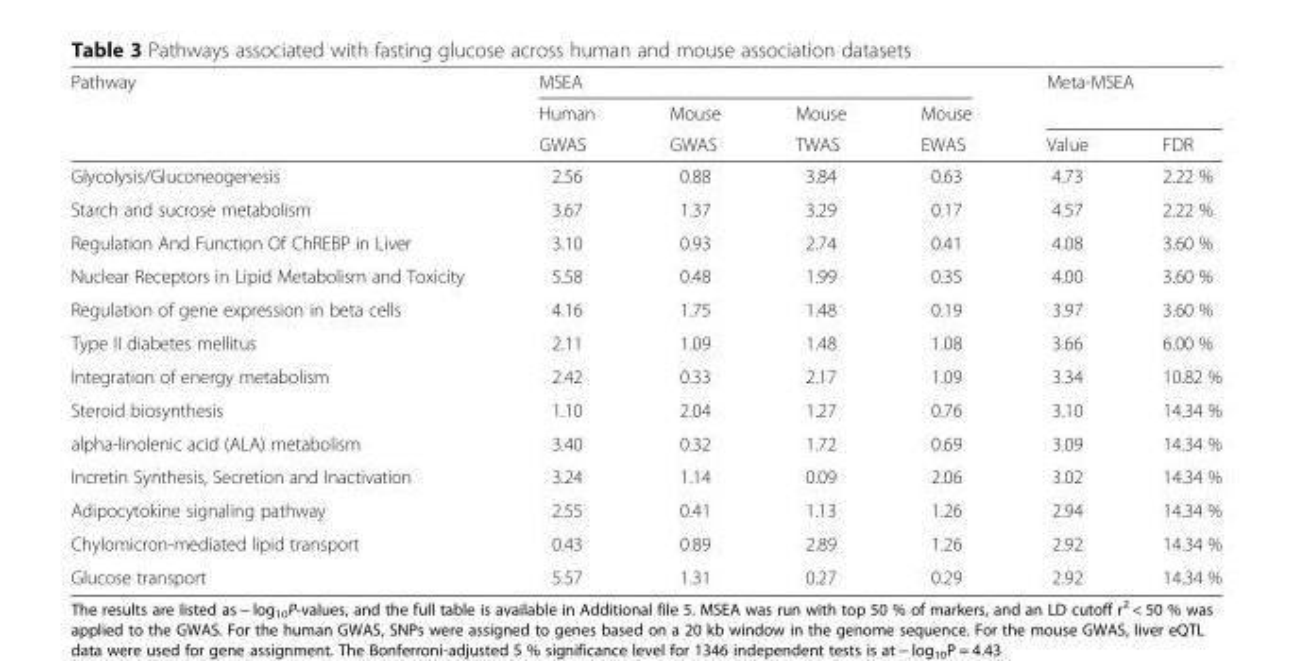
<table><thead><tr><td rowspan="3">Pathway</td><td colspan="4">MSEA</td><td rowspan="2" colspan="2">Meta-MSEA</td></tr><tr><td rowspan="2">Human GWAS</td><td rowspan="2">Mouse GWAS</td><td rowspan="2">Mouse TWAS</td><td rowspan="2">Mouse EWAS</td></tr><tr><td>Value</td><td>FDR</td></tr></thead><tbody><tr><td>Glycolysis/Gluconeogenesis</td><td>2.56</td><td>0.88</td><td>3.84</td><td>0.63</td><td>4.73</td><td>2.22 %</td></tr><tr><td>Starch and sucrose metabolism</td><td>3.67</td><td>1.37</td><td>3.29</td><td>0.17</td><td>4.57</td><td>2.22 %</td></tr><tr><td>Regulation And Function Of ChREBP in Liver</td><td>3.10</td><td>0.93</td><td>2.74</td><td>0.41</td><td>4.08</td><td>3.60 %</td></tr><tr><td>Nuclear Receptors in Lipid Metabolism and Toxicity</td><td>5.58</td><td>0.48</td><td>1.99</td><td>0.35</td><td>4.00</td><td>3.60 %</td></tr><tr><td>Regulation of gene expression in beta cells</td><td>4.16</td><td>1.75</td><td>1.48</td><td>0.19</td><td>3.97</td><td>3.60 %</td></tr><tr><td>Type II diabetes mellitus</td><td>2.11</td><td>1.09</td><td>1.48</td><td>1.08</td><td>3.66</td><td>6.00 %</td></tr><tr><td>Integration of energy metabolism</td><td>2.42</td><td>0.33</td><td>2.17</td><td>1.09</td><td>3.34</td><td>10.82 %</td></tr><tr><td>Steroid biosynthesis</td><td>1.10</td><td>2.04</td><td>1.27</td><td>0.76</td><td>3.10</td><td>14.34 %</td></tr><tr><td>alpha-linolenic acid (ALA) metabolism</td><td>3.40</td><td>0.32</td><td>1.72</td><td>0.69</td><td>3.09</td><td>14.34 %</td></tr><tr><td>Incretin Synthesis, Secretion and Inactivation</td><td>3.24</td><td>1.14</td><td>0.09</td><td>2.06</td><td>3.02</td><td>14.34 %</td></tr><tr><td>Adipocytokine signaling pathway</td><td>2.55</td><td>0.41</td><td>1.13</td><td>1.26</td><td>2.94</td><td>14.34 %</td></tr><tr><td>Chylomicron-mediated lipid transport</td><td>0.43</td><td>0.89</td><td>2.89</td><td>1.26</td><td>2.92</td><td>14.34 %</td></tr><tr><td>Glucose transport</td><td>5.57</td><td>1.31</td><td>0.27</td><td>0.29</td><td>2.92</td><td>14.34 %</td></tr></tbody></table>